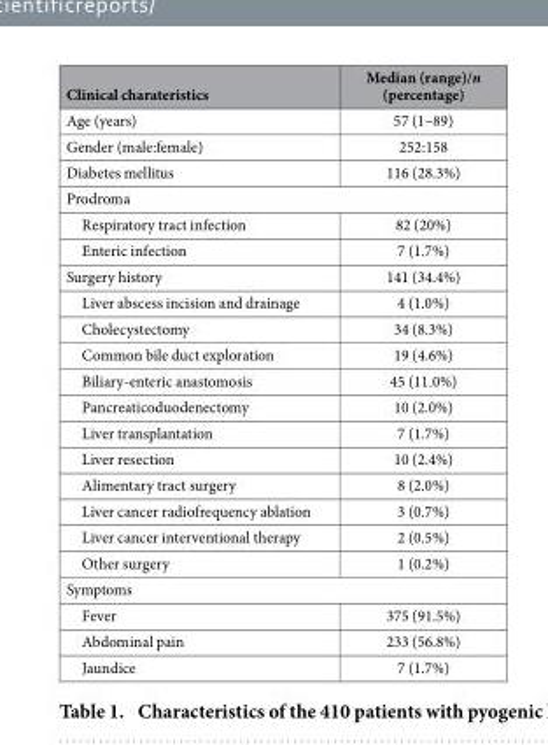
<table><thead><tr><td>Clinical charateristics</td><td>Median (range)/n (percentage)</td></tr></thead><tbody><tr><td>Age (years)</td><td>57 (1–89)</td></tr><tr><td>Gender (male:female)</td><td>252:158</td></tr><tr><td>Diabetes mellitus</td><td>116 (28.3%)</td></tr><tr><td colspan="2">Prodroma</td></tr><tr><td>Respiratory tract infection</td><td>82 (20%)</td></tr><tr><td>Enteric infection</td><td>7 (1.7%)</td></tr><tr><td>Surgery history</td><td>141 (34.4%)</td></tr><tr><td>Liver abscess incision and drainage</td><td>4 (1.0%)</td></tr><tr><td>Cholecystectomy</td><td>34 (8.3%)</td></tr><tr><td>Common bile duct exploration</td><td>19 (4.6%)</td></tr><tr><td>Biliary-enteric anastomosis</td><td>45 (11.0%)</td></tr><tr><td>Pancreaticoduodenectomy</td><td>10 (2.0%)</td></tr><tr><td>Liver transplantation</td><td>7 (1.7%)</td></tr><tr><td>Liver resection</td><td>10 (2.4%)</td></tr><tr><td>Alimentary tract surgery</td><td>8 (2.0%)</td></tr><tr><td>Liver cancer radiofrequency ablation</td><td>3 (0.7%)</td></tr><tr><td>Liver cancer interventional therapy</td><td>2 (0.5%)</td></tr><tr><td>Other surgery</td><td>1 (0.2%)</td></tr><tr><td colspan="2">Symptoms</td></tr><tr><td>Fever</td><td>375 (91.5%)</td></tr><tr><td>Abdominal pain</td><td>233 (56.8%)</td></tr><tr><td>Jaundice</td><td>7 (1.7%)</td></tr></tbody></table>